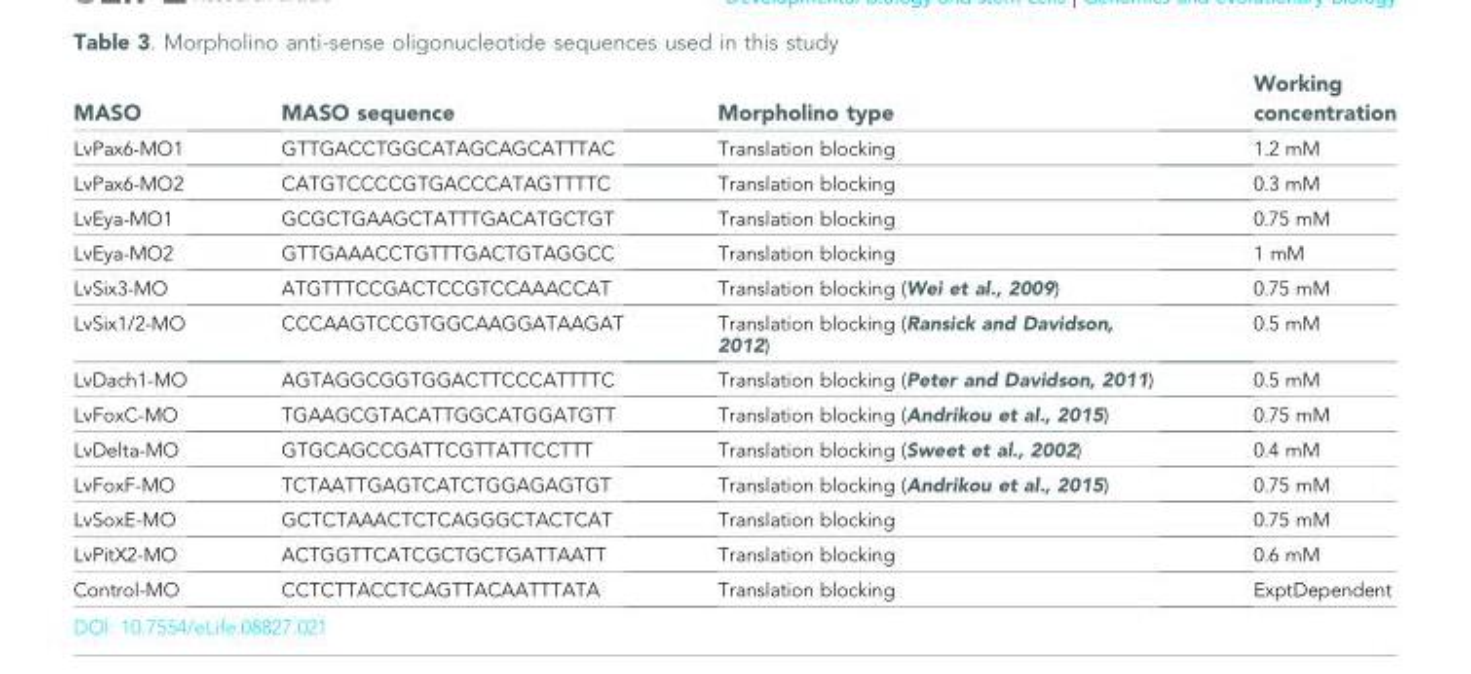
<table><thead><tr><td>MASO</td><td>MASO sequence</td><td>Morpholino type</td><td>Working concentration</td></tr></thead><tbody><tr><td>LvPax6-MO1</td><td>GTTGACCTGGCATAGCAGCATTTAC</td><td>Translation blocking</td><td>1.2 mM</td></tr><tr><td>LvPax6-MO2</td><td>CATGTCCCCGTGACCCATAGTTTTC</td><td>Translation blocking</td><td>0.3 mM</td></tr><tr><td>LvEya-MO1</td><td>GCGCTGAAGCTATTTGACATGCTGT</td><td>Translation blocking</td><td>0.75 mM</td></tr><tr><td>LvEya-MO2</td><td>GTTGAAACCTGTTTGACTGTAGGCC</td><td>Translation blocking</td><td>1 mM</td></tr><tr><td>LvSix3-MO</td><td>ATGTTTCCGACTCCGTCCAAACCAT</td><td>Translation blocking (Wei et al., 2009)</td><td>0.75 mM</td></tr><tr><td>LvSix1/2-MO</td><td>CCCAAGTCCGTGGCAAGGATAAGAT</td><td>Translation blocking (Ransick and Davidson, 2012)</td><td>0.5 mM</td></tr><tr><td>LvDach1-MO</td><td>AGTAGGCGGTGGACTTCCCATTTTC</td><td>Translation blocking (Peter and Davidson, 2011)</td><td>0.5 mM</td></tr><tr><td>LvFoxC-MO</td><td>TGAAGCGTACATTGGCATGGATGTT</td><td>Translation blocking (Andrikou et al., 2015)</td><td>0.75 mM</td></tr><tr><td>LvDelta-MO</td><td>GTGCAGCCGATTCGTTATTCCTTT</td><td>Translation blocking (Sweet et al., 2002)</td><td>0.4 mM</td></tr><tr><td>LvFoxF-MO</td><td>TCTAATTGAGTCATCTGGAGAGTGT</td><td>Translation blocking (Andrikou et al., 2015)</td><td>0.75 mM</td></tr><tr><td>LvSoxE-MO</td><td>GCTCTAAACTCTCAGGGCTACTCAT</td><td>Translation blocking</td><td>0.75 mM</td></tr><tr><td>LvPitX2-MO</td><td>ACTGGTTCATCGCTGCTGATTAATT</td><td>Translation blocking</td><td>0.6 mM</td></tr><tr><td>Control-MO</td><td>CCTCTTACCTCAGTTACAATTTATA</td><td>Translation blocking</td><td>ExptDependent</td></tr></tbody></table>